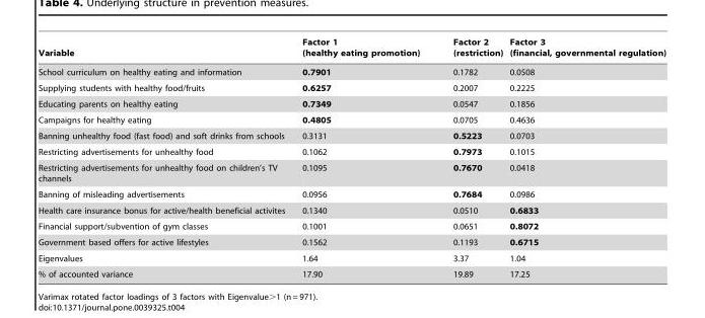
<table><thead><tr><td>Variable</td><td>Factor 1 (healthy eating promotion)</td><td>Factor 2 (restriction)</td><td>Factor 3 (financial, governmental regulation)</td></tr></thead><tbody><tr><td>School curriculum on healthy eating and information</td><td>0.7901</td><td>0.1782</td><td>0.0508</td></tr><tr><td>Supplying students with healthy food/fruits</td><td>0.6257</td><td>0.2007</td><td>0.2225</td></tr><tr><td>Educating parents on healthy eating</td><td>0.7349</td><td>0.0547</td><td>0.1856</td></tr><tr><td>Campaigns for healthy eating</td><td>0.4805</td><td>0.0705</td><td>0.4636</td></tr><tr><td>Banning unhealthy food (fast food) and soft drinks from schools</td><td>0.3131</td><td>0.5223</td><td>0.0703</td></tr><tr><td>Restricting advertisements for unhealthy food</td><td>0.1062</td><td>0.7973</td><td>0.1015</td></tr><tr><td>Restricting advertisements for unhealthy food on children’s TV channels</td><td>0.1095</td><td>0.7670</td><td>0.0418</td></tr><tr><td>Banning of misleading advertisements</td><td>0.0956</td><td>0.7684</td><td>0.0986</td></tr><tr><td>Health care insurance bonus for active/health beneficial activites</td><td>0.1340</td><td>0.0510</td><td>0.6833</td></tr><tr><td>Financial support/subvention of gym classes</td><td>0.1001</td><td>0.0651</td><td>0.8072</td></tr><tr><td>Government based offers for active lifestyles</td><td>0.1562</td><td>0.1193</td><td>0.6715</td></tr><tr><td>Eigenvalues</td><td>1.64</td><td>3.37</td><td>1.04</td></tr><tr><td>% of accounted variance</td><td>17.90</td><td>19.89</td><td>17.25</td></tr></tbody></table>